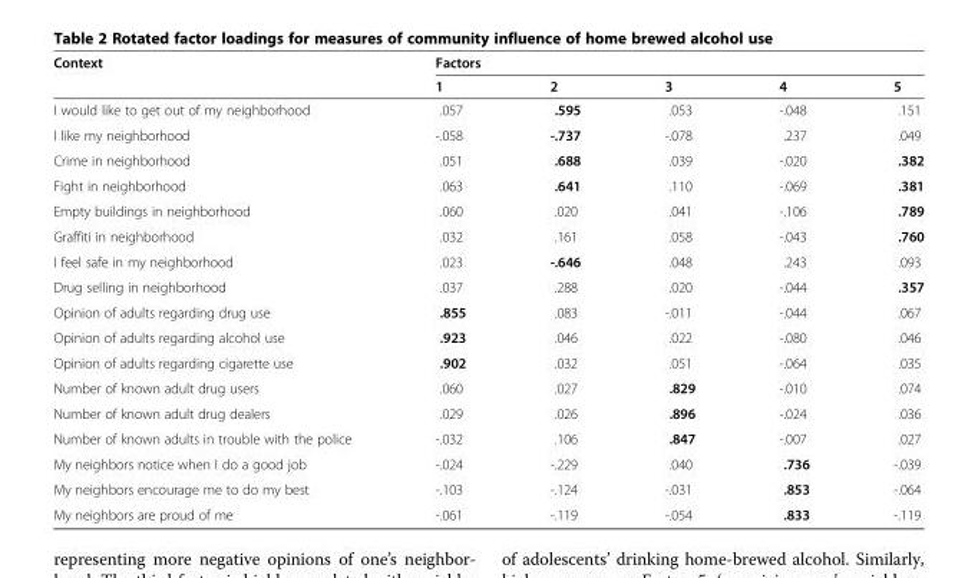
<table><thead><tr><td rowspan="2">Context</td><td colspan="5">Factors</td></tr><tr><td>1</td><td>2</td><td>3</td><td>4</td><td>5</td></tr></thead><tbody><tr><td>I would like to get out of my neighborhood</td><td>.057</td><td>.595</td><td>.053</td><td>-.048</td><td>.151</td></tr><tr><td>I like my neighborhood</td><td>-.058</td><td>-.737</td><td>-.078</td><td>.237</td><td>.049</td></tr><tr><td>Crime in neighborhood</td><td>.051</td><td>.688</td><td>.039</td><td>-.020</td><td>.382</td></tr><tr><td>Fight in neighborhood</td><td>.063</td><td>.641</td><td>.110</td><td>-.069</td><td>.381</td></tr><tr><td>Empty buildings in neighborhood</td><td>.060</td><td>.020</td><td>.041</td><td>-.106</td><td>.789</td></tr><tr><td>Graffiti in neighborhood</td><td>.032</td><td>.161</td><td>.058</td><td>-.043</td><td>.760</td></tr><tr><td>I feel safe in my neighborhood</td><td>.023</td><td>-.646</td><td>.048</td><td>.243</td><td>.093</td></tr><tr><td>Drug selling in neighborhood</td><td>.037</td><td>.288</td><td>.020</td><td>-.044</td><td>.357</td></tr><tr><td>Opinion of adults regarding drug use</td><td>.855</td><td>.083</td><td>-.011</td><td>-.044</td><td>.067</td></tr><tr><td>Opinion of adults regarding alcohol use</td><td>.923</td><td>.046</td><td>.022</td><td>-.080</td><td>.046</td></tr><tr><td>Opinion of adults regarding cigarette use</td><td>.902</td><td>.032</td><td>.051</td><td>-.064</td><td>.035</td></tr><tr><td>Number of known adult drug users</td><td>.060</td><td>.027</td><td>.829</td><td>-.010</td><td>.074</td></tr><tr><td>Number of known adult drug dealers</td><td>.029</td><td>.026</td><td>.896</td><td>-.024</td><td>.036</td></tr><tr><td>Number of known adults in trouble with the police</td><td>-.032</td><td>.106</td><td>.847</td><td>-.007</td><td>.027</td></tr><tr><td>My neighbors notice when I do a good job</td><td>-.024</td><td>-.229</td><td>.040</td><td>.736</td><td>-.039</td></tr><tr><td>My neighbors encourage me to do my best</td><td>-.103</td><td>-.124</td><td>-.031</td><td>.853</td><td>-.064</td></tr><tr><td>My neighbors are proud of me</td><td>-.061</td><td>-.119</td><td>-.054</td><td>.833</td><td>-.119</td></tr></tbody></table>